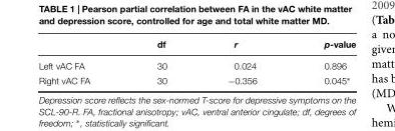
<table><thead><tr><td></td><td>df</td><td>r</td><td>p-value</td></tr></thead><tbody><tr><td>Left vAC FA</td><td>30</td><td>0.024</td><td>0.896</td></tr><tr><td>Right vAC FA</td><td>30</td><td>−0.356</td><td>0.045∗</td></tr></tbody></table>